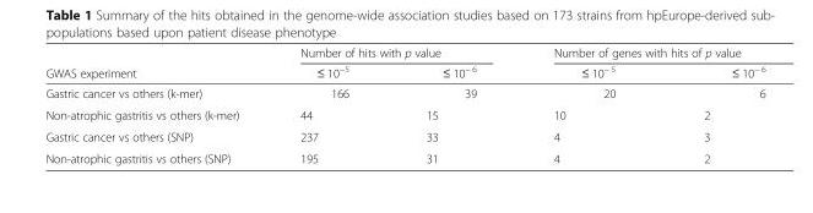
<table><thead><tr><td rowspan="2">GWAS experiment</td><td colspan="2">Number of hits with p value</td><td colspan="2">Number of genes with hits of p value</td></tr><tr><td>≤ 10<sup>−5</sup></td><td>≤ 10<sup>− 6</sup></td><td>≤ 10<sup>− 5</sup></td><td>≤ 10<sup>− 6</sup></td></tr></thead><tbody><tr><td>Gastric cancer vs others (k-mer)</td><td>166</td><td>39</td><td>20</td><td>6</td></tr><tr><td>Non-atrophic gastritis vs others (k-mer)</td><td>44</td><td>15</td><td>10</td><td>2</td></tr><tr><td>Gastric cancer vs others (SNP)</td><td>237</td><td>33</td><td>4</td><td>3</td></tr><tr><td>Non-atrophic gastritis vs others (SNP)</td><td>195</td><td>31</td><td>4</td><td>2</td></tr></tbody></table>